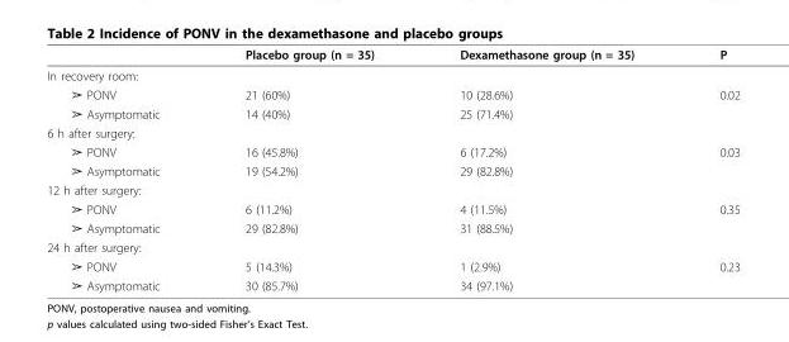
<table><thead><tr><td></td><td>Placebo group (n = 35)</td><td>Dexamethasone group (n = 35)</td><td>P</td></tr></thead><tbody><tr><td colspan="4">In recovery room:</td></tr><tr><td>➢ PONV</td><td>21 (60%)</td><td>10 (28.6%)</td><td>0.02</td></tr><tr><td>➢ Asymptomatic</td><td>14 (40%)</td><td>25 (71.4%)</td><td></td></tr><tr><td colspan="4">6 h after surgery:</td></tr><tr><td>➢ PONV</td><td>16 (45.8%)</td><td>6 (17.2%)</td><td>0.03</td></tr><tr><td>➢ Asymptomatic</td><td>19 (54.2%)</td><td>29 (82.8%)</td><td></td></tr><tr><td colspan="4">12 h after surgery:</td></tr><tr><td>➢ PONV</td><td>6 (11.2%)</td><td>4 (11.5%)</td><td>0.35</td></tr><tr><td>➢ Asymptomatic</td><td>29 (82.8%)</td><td>31 (88.5%)</td><td></td></tr><tr><td colspan="4">24 h after surgery:</td></tr><tr><td>➢ PONV</td><td>5 (14.3%)</td><td>1 (2.9%)</td><td>0.23</td></tr><tr><td>➢ Asymptomatic</td><td>30 (85.7%)</td><td>34 (97.1%)</td><td></td></tr></tbody></table>